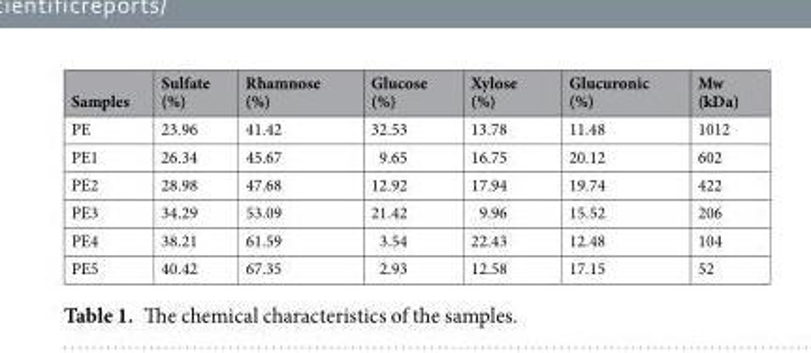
<table><thead><tr><td>Samples</td><td>Sulfate (%)</td><td>Rhamnose (%)</td><td>Glucose (%)</td><td>Xylose (%)</td><td>Glucuronic (%)</td><td>Mw (kDa)</td></tr></thead><tbody><tr><td>PE</td><td>23.96</td><td>41.42</td><td>32.53</td><td>13.78</td><td>11.48</td><td>1012</td></tr><tr><td>PE1</td><td>26.34</td><td>45.67</td><td>9.65</td><td>16.75</td><td>20.12</td><td>602</td></tr><tr><td>PE2</td><td>28.98</td><td>47.68</td><td>12.92</td><td>17.94</td><td>19.74</td><td>422</td></tr><tr><td>PE3</td><td>34.29</td><td>53.09</td><td>21.42</td><td>9.96</td><td>15.52</td><td>206</td></tr><tr><td>PE4</td><td>38.21</td><td>61.59</td><td>3.54</td><td>22.43</td><td>12.48</td><td>104</td></tr><tr><td>PE5</td><td>40.42</td><td>67.35</td><td>2.93</td><td>12.58</td><td>17.15</td><td>52</td></tr></tbody></table>